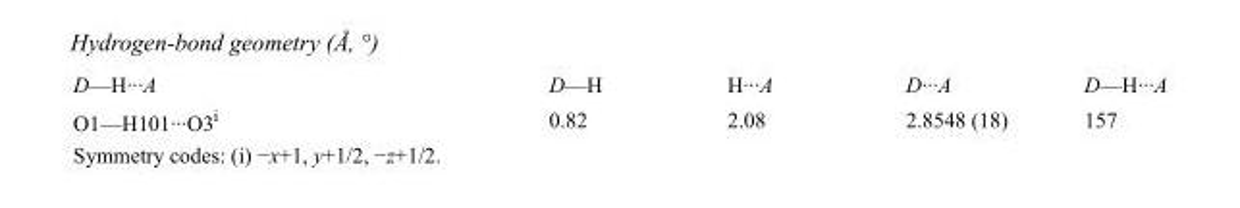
<table><tbody><tr><td>D—H···A</td><td>D—H</td><td>H···A</td><td>D···A</td><td>D—H···A</td></tr><tr><td>O1—H101···O3<sup>i</sup></td><td>0.82</td><td>2.08</td><td>2.8548 (18)</td><td>157</td></tr></tbody></table>